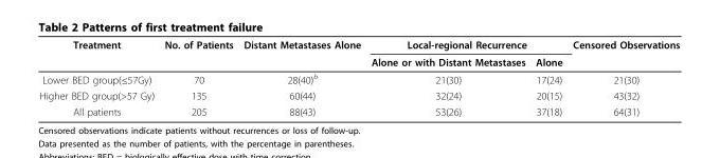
<table><thead><tr><td rowspan="2">Treatment</td><td rowspan="2">No. of Patients</td><td rowspan="2">Distant Metastases Alone</td><td colspan="2">Local-regional Recurrence</td><td rowspan="2">Censored Observations</td></tr><tr><td>Alone or with Distant Metastases</td><td>Alone</td></tr></thead><tbody><tr><td>Lower BED group(≤57Gy)</td><td>70</td><td>28(40)<sup>b</sup></td><td>21(30)</td><td>17(24)</td><td>21(30)</td></tr><tr><td>Higher BED group(&gt;57 Gy)</td><td>135</td><td>60(44)</td><td>32(24)</td><td>20(15)</td><td>43(32)</td></tr><tr><td>All patients</td><td>205</td><td>88(43)</td><td>53(26)</td><td>37(18)</td><td>64(31)</td></tr></tbody></table>